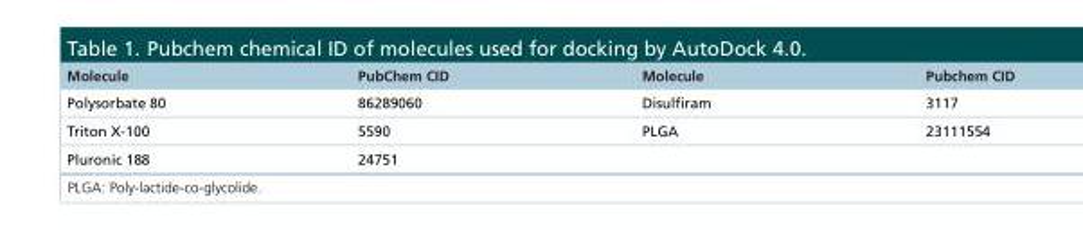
<table><thead><tr><td>Molecule</td><td>PubChem CID</td><td>Molecule</td><td>Pubchem CID</td></tr></thead><tbody><tr><td>Polysorbate 80</td><td>86289060</td><td>Disulfiram</td><td>3117</td></tr><tr><td>Triton X-100</td><td>5590</td><td>PLGA</td><td>23111554</td></tr><tr><td>Pluronic 188</td><td>24751</td><td></td><td></td></tr></tbody></table>